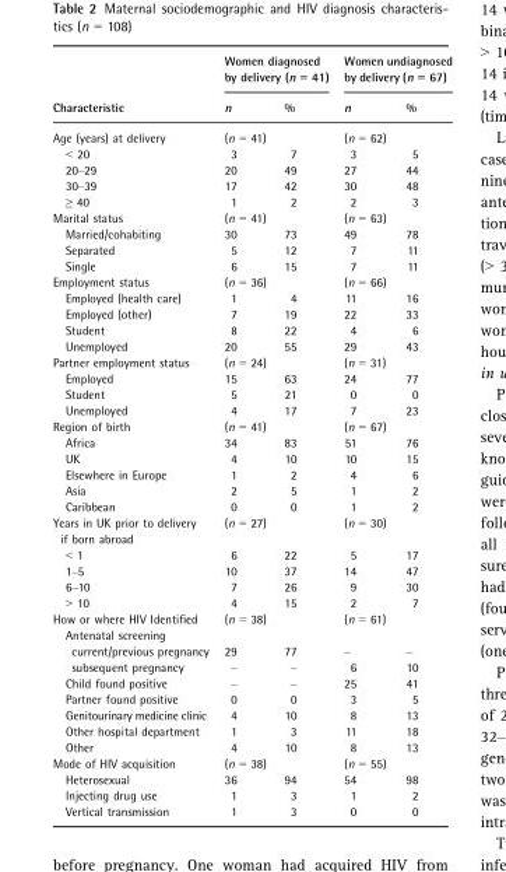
<table><thead><tr><td rowspan="2">Characteristic</td><td colspan="2">Women diagnosed by delivery (n = 41)</td><td colspan="2">Women undiagnosed by delivery (n = 67)</td></tr><tr><td>n</td><td>%</td><td>n</td><td>%</td></tr></thead><tbody><tr><td>Age (years) at delivery</td><td colspan="2">(n = 41)</td><td colspan="2">(n = 62)</td></tr><tr><td>&lt; 20</td><td>3</td><td>7</td><td>3</td><td>5</td></tr><tr><td>20–29</td><td>20</td><td>49</td><td>27</td><td>44</td></tr><tr><td>30–39</td><td>17</td><td>42</td><td>30</td><td>48</td></tr><tr><td>≥ 40</td><td>1</td><td>2</td><td>2</td><td>3</td></tr><tr><td>Marital status</td><td colspan="2">(n = 41)</td><td colspan="2">(n = 63)</td></tr><tr><td>Married/cohabiting</td><td>30</td><td>73</td><td>49</td><td>78</td></tr><tr><td>Separated</td><td>5</td><td>12</td><td>7</td><td>11</td></tr><tr><td>Single</td><td>6</td><td>15</td><td>7</td><td>11</td></tr><tr><td>Employment status</td><td colspan="2">(n = 36)</td><td colspan="2">(n = 66)</td></tr><tr><td>Employed (health care)</td><td>1</td><td>4</td><td>11</td><td>16</td></tr><tr><td>Employed (other)</td><td>7</td><td>19</td><td>22</td><td>33</td></tr><tr><td>Student</td><td>8</td><td>22</td><td>4</td><td>6</td></tr><tr><td>Unemployed</td><td>20</td><td>55</td><td>29</td><td>43</td></tr><tr><td>Partner employment status</td><td colspan="2">(n = 24)</td><td colspan="2">(n = 31)</td></tr><tr><td>Employed</td><td>15</td><td>63</td><td>24</td><td>77</td></tr><tr><td>Student</td><td>5</td><td>21</td><td>0</td><td>0</td></tr><tr><td>Unemployed</td><td>4</td><td>17</td><td>7</td><td>23</td></tr><tr><td>Region of birth</td><td colspan="2">(n = 41)</td><td colspan="2">(n = 67)</td></tr><tr><td>Africa</td><td>34</td><td>83</td><td>51</td><td>76</td></tr><tr><td>UK</td><td>4</td><td>10</td><td>10</td><td>15</td></tr><tr><td>Elsewhere in Europe</td><td>1</td><td>2</td><td>4</td><td>6</td></tr><tr><td>Asia</td><td>2</td><td>5</td><td>1</td><td>2</td></tr><tr><td>Caribbean</td><td>0</td><td>0</td><td>1</td><td>2</td></tr><tr><td>Years in UK prior to delivery if born abroad</td><td colspan="2">(n = 27)</td><td colspan="2">(n = 30)</td></tr><tr><td>&lt; 1</td><td>6</td><td>22</td><td>5</td><td>17</td></tr><tr><td>1–5</td><td>10</td><td>37</td><td>14</td><td>47</td></tr><tr><td>6–10</td><td>7</td><td>26</td><td>9</td><td>30</td></tr><tr><td>&gt; 10</td><td>4</td><td>15</td><td>2</td><td>7</td></tr><tr><td>How or where HIV Identified</td><td colspan="2">(n = 38)</td><td colspan="2">(n = 61)</td></tr><tr><td>Antenatal screening current/previous pregnancy</td><td>29</td><td>77</td><td>–</td><td>–</td></tr><tr><td>subsequent pregnancy</td><td>–</td><td>–</td><td>6</td><td>10</td></tr><tr><td>Child found positive</td><td>–</td><td>–</td><td>25</td><td>41</td></tr><tr><td>Partner found positive</td><td>0</td><td>0</td><td>3</td><td>5</td></tr><tr><td>Genitourinary medicine clinic</td><td>4</td><td>10</td><td>8</td><td>13</td></tr><tr><td>Other hospital department</td><td>1</td><td>3</td><td>11</td><td>18</td></tr><tr><td>Other</td><td>4</td><td>10</td><td>8</td><td>13</td></tr><tr><td>Mode of HIV acquisition</td><td colspan="2">(n = 38)</td><td colspan="2">(n = 55)</td></tr><tr><td>Heterosexual</td><td>36</td><td>94</td><td>54</td><td>98</td></tr><tr><td>Injecting drug use</td><td>1</td><td>3</td><td>1</td><td>2</td></tr><tr><td>Vertical transmission</td><td>1</td><td>3</td><td>0</td><td>0</td></tr></tbody></table>